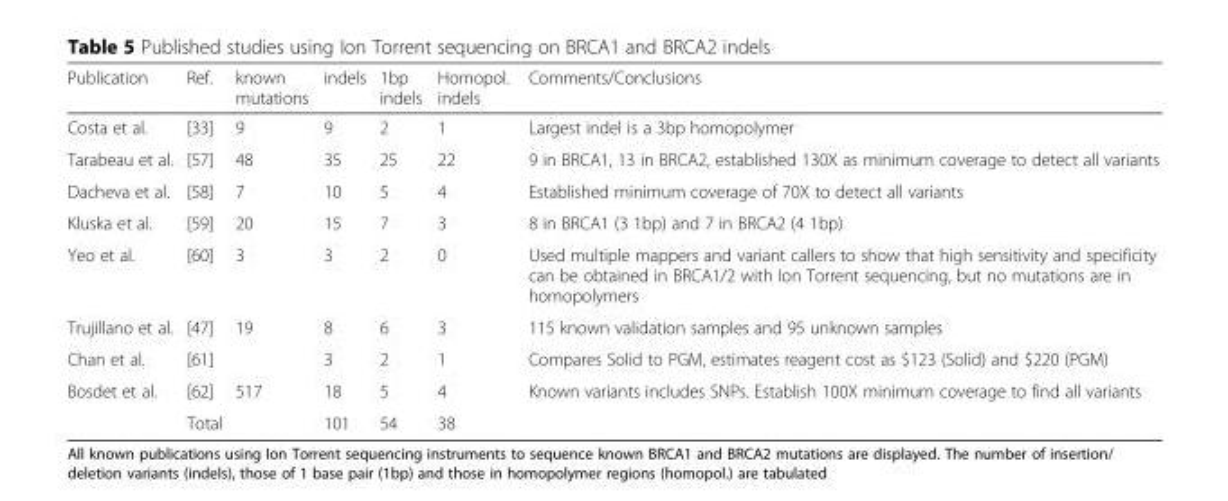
<table><thead><tr><td>Publication</td><td>Ref.</td><td>known mutations</td><td>indels</td><td>1bp indels</td><td>Homopol. indels</td><td>Comments/Conclusions</td></tr></thead><tbody><tr><td>Costa et al.</td><td>[33]</td><td>9</td><td>9</td><td>2</td><td>1</td><td>Largest indel is a 3bp homopolymer</td></tr><tr><td>Tarabeau et al.</td><td>[57]</td><td>48</td><td>35</td><td>25</td><td>22</td><td>9 in BRCA1, 13 in BRCA2, established 130X as minimum coverage to detect all variants</td></tr><tr><td>Dacheva et al.</td><td>[58]</td><td>7</td><td>10</td><td>5</td><td>4</td><td>Established minimum coverage of 70X to detect all variants</td></tr><tr><td>Kluska et al.</td><td>[59]</td><td>20</td><td>15</td><td>7</td><td>3</td><td>8 in BRCA1 (3 1bp) and 7 in BRCA2 (4 1bp)</td></tr><tr><td>Yeo et al.</td><td>[60]</td><td>3</td><td>3</td><td>2</td><td>0</td><td>Used multiple mappers and variant callers to show that high sensitivity and specificity can be obtained in BRCA1/2 with Ion Torrent sequencing, but no mutations are in homopolymers</td></tr><tr><td>Trujillano et al.</td><td>[47]</td><td>19</td><td>8</td><td>6</td><td>3</td><td>115 known validation samples and 95 unknown samples</td></tr><tr><td>Chan et al.</td><td colspan="2">[61]</td><td>3</td><td>2</td><td>1</td><td>Compares Solid to PGM, estimates reagent cost as $123 (Solid) and $220 (PGM)</td></tr><tr><td rowspan="2">Bosdet et al.</td><td>[62]</td><td>517</td><td>18</td><td>5</td><td>4</td><td>Known variants includes SNPs. Establish 100X minimum coverage to find all variants</td></tr><tr><td>Total</td><td></td><td>101</td><td>54</td><td>38</td><td></td></tr></tbody></table>